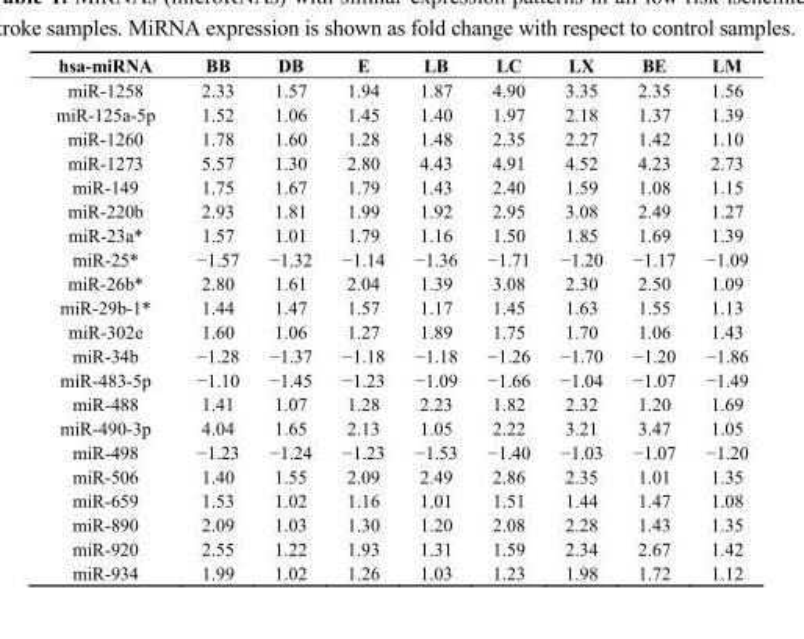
<table><thead><tr><td>hsa-miRNA</td><td>BB</td><td>DB</td><td>E</td><td>LB</td><td>LC</td><td>LX</td><td>BE</td><td>LM</td></tr></thead><tbody><tr><td>miR-1258</td><td>2.33</td><td>1.57</td><td>1.94</td><td>1.87</td><td>4.90</td><td>3.35</td><td>2.35</td><td>1.56</td></tr><tr><td>miR-125a-5p</td><td>1.52</td><td>1.06</td><td>1.45</td><td>1.40</td><td>1.97</td><td>2.18</td><td>1.37</td><td>1.39</td></tr><tr><td>miR-1260</td><td>1.78</td><td>1.60</td><td>1.28</td><td>1.48</td><td>2.35</td><td>2.27</td><td>1.42</td><td>1.10</td></tr><tr><td>miR-1273</td><td>5.57</td><td>1.30</td><td>2.80</td><td>4.43</td><td>4.91</td><td>4.52</td><td>4.23</td><td>2.73</td></tr><tr><td>miR-149</td><td>1.75</td><td>1.67</td><td>1.79</td><td>1.43</td><td>2.40</td><td>1.59</td><td>1.08</td><td>1.15</td></tr><tr><td>miR-220b</td><td>2.93</td><td>1.81</td><td>1.99</td><td>1.92</td><td>2.95</td><td>3.08</td><td>2.49</td><td>1.27</td></tr><tr><td>miR-23a*</td><td>1.57</td><td>1.01</td><td>1.79</td><td>1.16</td><td>1.50</td><td>1.85</td><td>1.69</td><td>1.39</td></tr><tr><td>miR-25*</td><td>−1.57</td><td>−1.32</td><td>−1.14</td><td>−1.36</td><td>−1.71</td><td>−1.20</td><td>−1.17</td><td>−1.09</td></tr><tr><td>miR-26b*</td><td>2.80</td><td>1.61</td><td>2.04</td><td>1.39</td><td>3.08</td><td>2.30</td><td>2.50</td><td>1.09</td></tr><tr><td>miR-29b-1*</td><td>1.44</td><td>1.47</td><td>1.57</td><td>1.17</td><td>1.45</td><td>1.63</td><td>1.55</td><td>1.13</td></tr><tr><td>miR-302e</td><td>1.60</td><td>1.06</td><td>1.27</td><td>1.89</td><td>1.75</td><td>1.70</td><td>1.06</td><td>1.43</td></tr><tr><td>miR-34b</td><td>−1.28</td><td>−1.37</td><td>−1.18</td><td>−1.18</td><td>−1.26</td><td>−1.70</td><td>−1.20</td><td>−1.86</td></tr><tr><td>miR-483-5p</td><td>−1.10</td><td>−1.45</td><td>−1.23</td><td>−1.09</td><td>−1.66</td><td>−1.04</td><td>−1.07</td><td>−1.49</td></tr><tr><td>miR-488</td><td>1.41</td><td>1.07</td><td>1.28</td><td>2.23</td><td>1.82</td><td>2.32</td><td>1.20</td><td>1.69</td></tr><tr><td>miR-490-3p</td><td>4.04</td><td>1.65</td><td>2.13</td><td>1.05</td><td>2.22</td><td>3.21</td><td>3.47</td><td>1.05</td></tr><tr><td>miR-498</td><td>−1.23</td><td>−1.24</td><td>−1.23</td><td>−1.53</td><td>−1.40</td><td>−1.03</td><td>−1.07</td><td>−1.20</td></tr><tr><td>miR-506</td><td>1.40</td><td>1.55</td><td>2.09</td><td>2.49</td><td>2.86</td><td>2.35</td><td>1.01</td><td>1.35</td></tr><tr><td>miR-659</td><td>1.53</td><td>1.02</td><td>1.16</td><td>1.01</td><td>1.51</td><td>1.44</td><td>1.47</td><td>1.08</td></tr><tr><td>miR-890</td><td>2.09</td><td>1.03</td><td>1.30</td><td>1.20</td><td>2.08</td><td>2.28</td><td>1.43</td><td>1.35</td></tr><tr><td>miR-920</td><td>2.55</td><td>1.22</td><td>1.93</td><td>1.31</td><td>1.59</td><td>2.34</td><td>2.67</td><td>1.42</td></tr><tr><td>miR-934</td><td>1.99</td><td>1.02</td><td>1.26</td><td>1.03</td><td>1.23</td><td>1.98</td><td>1.72</td><td>1.12</td></tr></tbody></table>